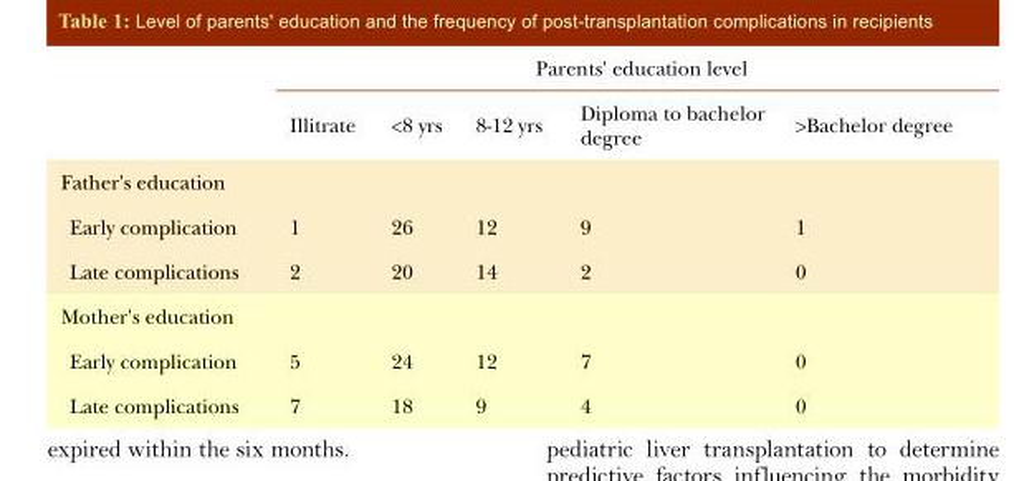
<table><thead><tr><td rowspan="2"></td><td colspan="5">Parents&#x27; education level</td></tr><tr><td>Illitrate</td><td>&lt;8 yrs</td><td>8-12 yrs</td><td>Diploma to bachelor degree</td><td>&gt;Bachelor degree</td></tr></thead><tbody><tr><td colspan="6">Father&#x27;s education</td></tr><tr><td>Early complication</td><td>1</td><td>26</td><td>12</td><td>9</td><td>1</td></tr><tr><td>Late complications</td><td>2</td><td>20</td><td>14</td><td>2</td><td>0</td></tr><tr><td colspan="6">Mother&#x27;s education</td></tr><tr><td>Early complication</td><td>5</td><td>24</td><td>12</td><td>7</td><td>0</td></tr><tr><td>Late complications</td><td>7</td><td>18</td><td>9</td><td>4</td><td>0</td></tr></tbody></table>